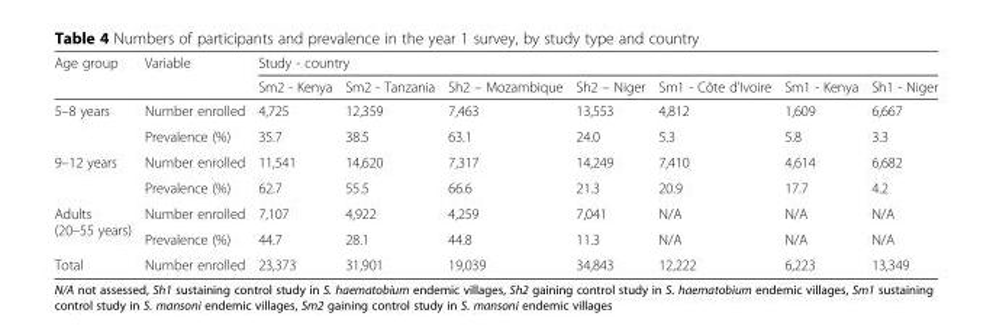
<table><thead><tr><td rowspan="2">Age group</td><td rowspan="2">Variable</td><td colspan="7">Study - country</td></tr><tr><td>Sm2 - Kenya</td><td>Sm2 - Tanzania</td><td>Sh2 – Mozambique</td><td>Sh2 – Niger</td><td>Sm1 - Côte d’Ivoire</td><td>Sm1 - Kenya</td><td>Sh1 - Niger</td></tr></thead><tbody><tr><td rowspan="2">5–8 years</td><td>Number enrolled</td><td>4,725</td><td>12,359</td><td>7,463</td><td>13,553</td><td>4,812</td><td>1,609</td><td>6,667</td></tr><tr><td>Prevalence (%)</td><td>35.7</td><td>38.5</td><td>63.1</td><td>24.0</td><td>5.3</td><td>5.8</td><td>3.3</td></tr><tr><td rowspan="2">9–12 years</td><td>Number enrolled</td><td>11,541</td><td>14,620</td><td>7,317</td><td>14,249</td><td>7,410</td><td>4,614</td><td>6,682</td></tr><tr><td>Prevalence (%)</td><td>62.7</td><td>55.5</td><td>66.6</td><td>21.3</td><td>20.9</td><td>17.7</td><td>4.2</td></tr><tr><td rowspan="2">Adults (20–55 years)</td><td>Number enrolled</td><td>7,107</td><td>4,922</td><td>4,259</td><td>7,041</td><td>N/A</td><td>N/A</td><td>N/A</td></tr><tr><td>Prevalence (%)</td><td>44.7</td><td>28.1</td><td>44.8</td><td>11.3</td><td>N/A</td><td>N/A</td><td>N/A</td></tr><tr><td>Total</td><td>Number enrolled</td><td>23,373</td><td>31,901</td><td>19,039</td><td>34,843</td><td>12,222</td><td>6,223</td><td>13,349</td></tr></tbody></table>